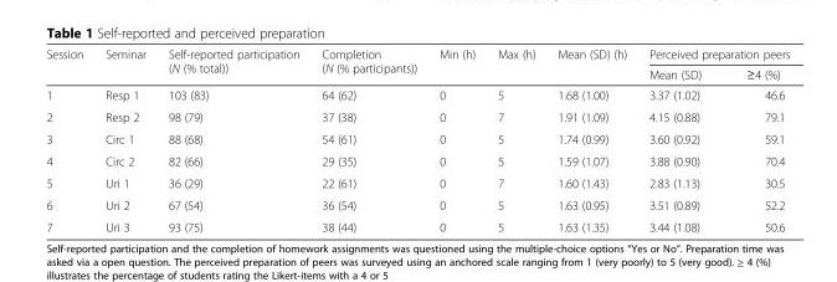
<table><thead><tr><td rowspan="2">Session</td><td rowspan="2">Seminar</td><td rowspan="2">Self-reported participation (N (% total))</td><td rowspan="2">Completion (N (% participants))</td><td rowspan="2">Min (h)</td><td rowspan="2">Max (h)</td><td rowspan="2">Mean (SD) (h)</td><td colspan="2">Perceived preparation peers</td></tr><tr><td>Mean (SD)</td><td>≥4 (%)</td></tr></thead><tbody><tr><td>1</td><td>Resp 1</td><td>103 (83)</td><td>64 (62)</td><td>0</td><td>5</td><td>1.68 (1.00)</td><td>3.37 (1.02)</td><td>46.6</td></tr><tr><td>2</td><td>Resp 2</td><td>98 (79)</td><td>37 (38)</td><td>0</td><td>7</td><td>1.91 (1.09)</td><td>4.15 (0.88)</td><td>79.1</td></tr><tr><td>3</td><td>Circ 1</td><td>88 (68)</td><td>54 (61)</td><td>0</td><td>5</td><td>1.74 (0.99)</td><td>3.60 (0.92)</td><td>59.1</td></tr><tr><td>4</td><td>Circ 2</td><td>82 (66)</td><td>29 (35)</td><td>0</td><td>5</td><td>1.59 (1.07)</td><td>3.88 (0.90)</td><td>70.4</td></tr><tr><td>5</td><td>Uri 1</td><td>36 (29)</td><td>22 (61)</td><td>0</td><td>7</td><td>1.60 (1.43)</td><td>2.83 (1.13)</td><td>30.5</td></tr><tr><td>6</td><td>Uri 2</td><td>67 (54)</td><td>36 (54)</td><td>0</td><td>5</td><td>1.63 (0.95)</td><td>3.51 (0.89)</td><td>52.2</td></tr><tr><td>7</td><td>Uri 3</td><td>93 (75)</td><td>38 (44)</td><td>0</td><td>5</td><td>1.63 (1.35)</td><td>3.44 (1.08)</td><td>50.6</td></tr></tbody></table>